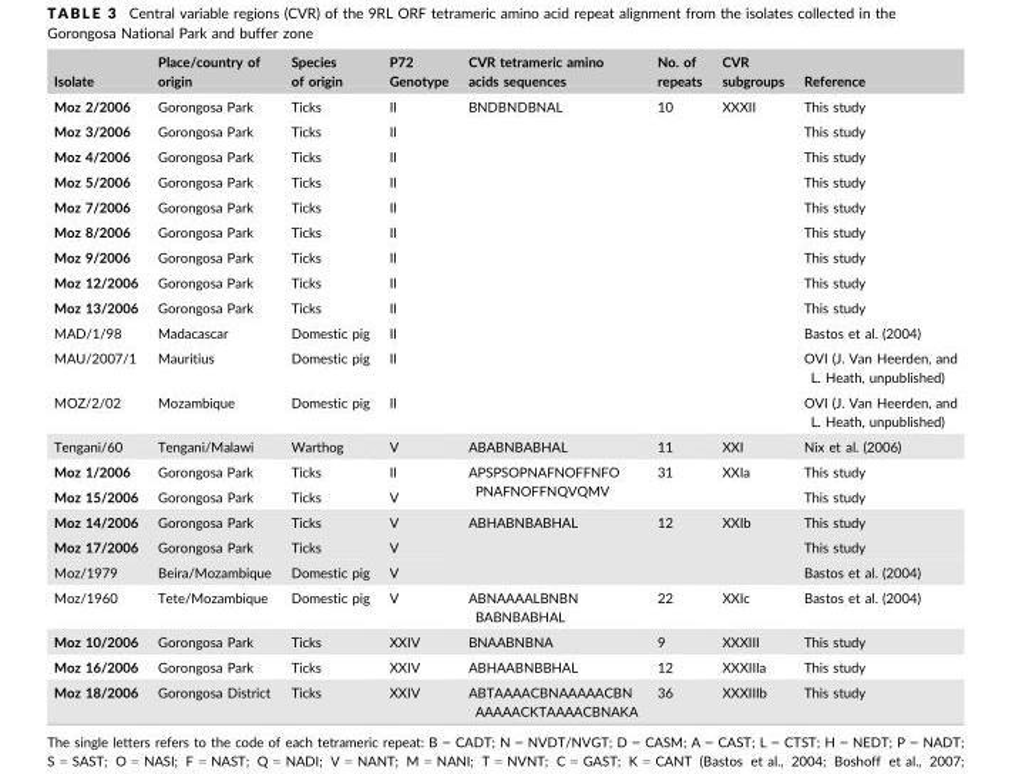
<table><thead><tr><td>Isolate</td><td>Place/country of origin</td><td>Species of origin</td><td>P72 Genotype</td><td>CVR tetrameric amino acids sequences</td><td>No. of repeats</td><td>CVR subgroups</td><td>Reference</td></tr></thead><tbody><tr><td>Moz 2/2006</td><td>Gorongosa Park</td><td>Ticks</td><td>II</td><td rowspan="12">BNDBNDBNAL</td><td rowspan="12">10</td><td rowspan="12">XXXII</td><td>This study</td></tr><tr><td>Moz 3/2006</td><td>Gorongosa Park</td><td>Ticks</td><td>II</td><td>This study</td></tr><tr><td>Moz 4/2006</td><td>Gorongosa Park</td><td>Ticks</td><td>II</td><td>This study</td></tr><tr><td>Moz 5/2006</td><td>Gorongosa Park</td><td>Ticks</td><td>II</td><td>This study</td></tr><tr><td>Moz 7/2006</td><td>Gorongosa Park</td><td>Ticks</td><td>II</td><td>This study</td></tr><tr><td>Moz 8/2006</td><td>Gorongosa Park</td><td>Ticks</td><td>II</td><td>This study</td></tr><tr><td>Moz 9/2006</td><td>Gorongosa Park</td><td>Ticks</td><td>II</td><td>This study</td></tr><tr><td>Moz 12/2006</td><td>Gorongosa Park</td><td>Ticks</td><td>II</td><td>This study</td></tr><tr><td>Moz 13/2006</td><td>Gorongosa Park</td><td>Ticks</td><td>II</td><td>This study</td></tr><tr><td>MAD/1/98</td><td>Madacascar</td><td>Domestic pig</td><td>II</td><td>Bastos et al. (2004)</td></tr><tr><td>MAU/2007/1</td><td>Mauritius</td><td>Domestic pig</td><td>II</td><td>OVI (J. Van Heerden, and L. Heath, unpublished)</td></tr><tr><td>MOZ/2/02</td><td>Mozambique</td><td>Domestic pig</td><td>II</td><td>OVI (J. Van Heerden, and L. Heath, unpublished)</td></tr><tr><td>Tengani/60</td><td>Tengani/Malawi</td><td>Warthog</td><td>V</td><td>ABABNBABHAL</td><td>11</td><td>XXI</td><td>Nix et al. (2006)</td></tr><tr><td>Moz 1/2006</td><td>Gorongosa Park</td><td>Ticks</td><td>II</td><td rowspan="2">APSPSOPNAFNOFFNFO PNAFNOFFNQVQMV</td><td rowspan="2">31</td><td rowspan="2">XXIa</td><td>This study</td></tr><tr><td>Moz 15/2006</td><td>Gorongosa Park</td><td>Ticks</td><td>V</td><td>This study</td></tr><tr><td>Moz 14/2006</td><td>Gorongosa Park</td><td>Ticks</td><td>V</td><td rowspan="3">ABHABNBABHAL</td><td rowspan="3">12</td><td rowspan="3">XXIb</td><td>This study</td></tr><tr><td>Moz 17/2006</td><td>Gorongosa Park</td><td>Ticks</td><td>V</td><td>This study</td></tr><tr><td>Moz/1979</td><td>Beira/Mozambique</td><td>Domestic pig</td><td>V</td><td>Bastos et al. (2004)</td></tr><tr><td>Moz/1960</td><td>Tete/Mozambique</td><td>Domestic pig</td><td>V</td><td>ABNAAAALBNBN BABNBABHAL</td><td>22</td><td>XXIc</td><td>Bastos et al. (2004)</td></tr><tr><td>Moz 10/2006</td><td>Gorongosa Park</td><td>Ticks</td><td>XXIV</td><td>BNAABNBNA</td><td>9</td><td>XXXIII</td><td>This study</td></tr><tr><td>Moz 16/2006</td><td>Gorongosa Park</td><td>Ticks</td><td>XXIV</td><td>ABHAABNBBHAL</td><td>12</td><td>XXXIIIa</td><td>This study</td></tr><tr><td>Moz 18/2006</td><td>Gorongosa District</td><td>Ticks</td><td>XXIV</td><td>ABTAAAACBNAAAAACBN AAAAACKTAAAACBNAKA</td><td>36</td><td>XXXIIIb</td><td>This study</td></tr></tbody></table>